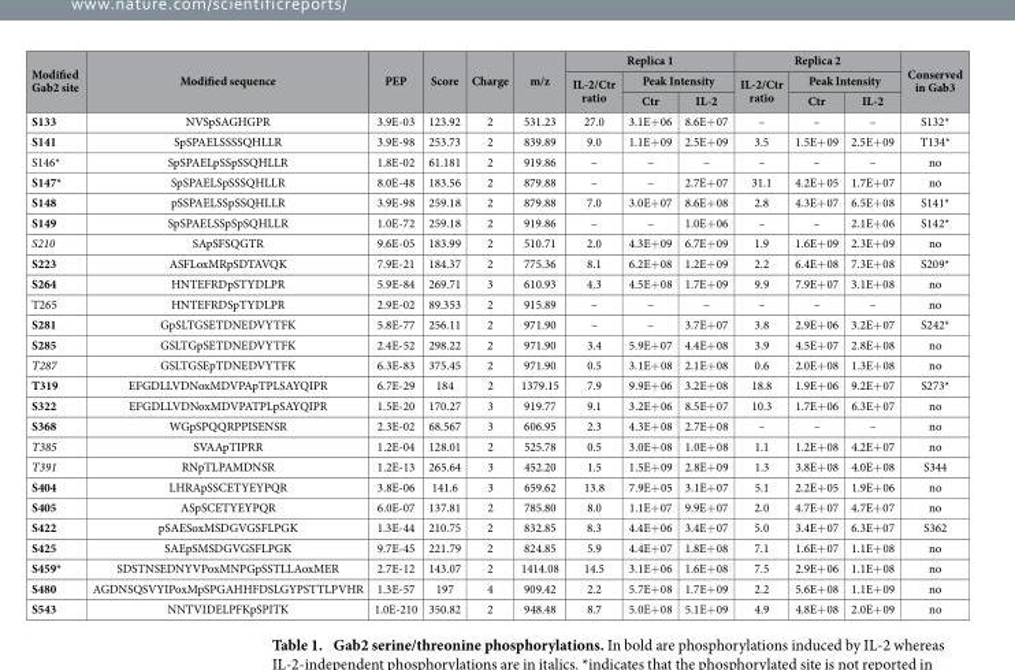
<table><thead><tr><td rowspan="3">Modified Gab2 site</td><td rowspan="3">Modified sequence</td><td rowspan="3">PEP</td><td rowspan="3">Score</td><td rowspan="3">Charge</td><td rowspan="3">m/z</td><td colspan="3">Replica 1</td><td colspan="3">Replica 2</td><td rowspan="3">Conserved in Gab3</td></tr><tr><td rowspan="2">IL-2/Ctr ratio</td><td colspan="2">Peak Intensity</td><td rowspan="2">IL-2/Ctr ratio</td><td colspan="2">Peak Intensity</td></tr><tr><td>Ctr</td><td>IL-2</td><td>Ctr</td><td>IL-2</td></tr></thead><tbody><tr><td>S133</td><td>NVSpSAGHGPR</td><td>3.9E-03</td><td>123.92</td><td>2</td><td>531.23</td><td>27.0</td><td>3.1E+ 06</td><td>8.6E+ 07</td><td>–</td><td>–</td><td>–</td><td>S132*</td></tr><tr><td>S141</td><td>SpSPAELSSSSQHLLR</td><td>3.9E-98</td><td>253.73</td><td>2</td><td>839.89</td><td>9.0</td><td>1.1E+ 09</td><td>2.5E+ 09</td><td>3.5</td><td>1.5E+ 09</td><td>2.5E+ 09</td><td>T134*</td></tr><tr><td>S146*</td><td>SpSPAELpSSpSSQHLLR</td><td>1.8E-02</td><td>61.181</td><td>2</td><td>919.86</td><td>–</td><td>–</td><td>–</td><td>–</td><td>–</td><td>–</td><td>no</td></tr><tr><td>S147*</td><td>SpSPAELSpSSSQHLLR</td><td>8.0E-48</td><td>183.56</td><td>2</td><td>879.88</td><td>–</td><td>–</td><td>2.7E+ 07</td><td>31.1</td><td>4.2E+ 05</td><td>1.7E+ 07</td><td>no</td></tr><tr><td>S148</td><td>pSSPAELSSpSSQHLLR</td><td>3.9E-98</td><td>259.18</td><td>2</td><td>879.88</td><td>7.0</td><td>3.0E+ 07</td><td>8.6E+ 08</td><td>2.8</td><td>4.3E+ 07</td><td>6.5E+ 08</td><td>S141*</td></tr><tr><td>S149</td><td>SpSPAELSSpSpSQHLLR</td><td>1.0E-72</td><td>259.18</td><td>2</td><td>919.86</td><td>–</td><td>–</td><td>1.0E+ 06</td><td>–</td><td>–</td><td>2.1E+ 06</td><td>S142*</td></tr><tr><td>S210</td><td>SApSFSQGTR</td><td>9.6E-05</td><td>183.99</td><td>2</td><td>510.71</td><td>2.0</td><td>4.3E+ 09</td><td>6.7E+ 09</td><td>1.9</td><td>1.6E+ 09</td><td>2.3E+ 09</td><td>no</td></tr><tr><td>S223</td><td>ASFLoxMRpSDTAVQK</td><td>7.9E-21</td><td>184.37</td><td>2</td><td>775.36</td><td>8.1</td><td>6.2E+ 08</td><td>1.2E+ 09</td><td>2.2</td><td>6.4E+ 08</td><td>7.3E+ 08</td><td>S209*</td></tr><tr><td>S264</td><td>HNTEFRDpSTYDLPR</td><td>5.9E-84</td><td>269.71</td><td>3</td><td>610.93</td><td>4.3</td><td>4.5E+ 08</td><td>1.7E+ 09</td><td>9.9</td><td>7.9E+ 07</td><td>3.1E+ 08</td><td>no</td></tr><tr><td>T265</td><td>HNTEFRDSpTYDLPR</td><td>2.9E-02</td><td>89.353</td><td>2</td><td>915.89</td><td>–</td><td>–</td><td>–</td><td>–</td><td>–</td><td>–</td><td>no</td></tr><tr><td>S281</td><td>GpSLTGSETDNEDVYTFK</td><td>5.8E-77</td><td>256.11</td><td>2</td><td>971.90</td><td>–</td><td>–</td><td>3.7E+ 07</td><td>3.8</td><td>2.9E+ 06</td><td>3.2E+ 07</td><td>S242*</td></tr><tr><td>S285</td><td>GSLTGpSETDNEDVYTFK</td><td>2.4E-52</td><td>298.22</td><td>2</td><td>971.90</td><td>3.4</td><td>5.9E+ 07</td><td>4.4E+ 08</td><td>3.9</td><td>4.5E+ 07</td><td>2.8E+ 08</td><td>no</td></tr><tr><td>T287</td><td>GSLTGSEpTDNEDVYTFK</td><td>6.3E-83</td><td>375.45</td><td>2</td><td>971.90</td><td>0.5</td><td>3.1E+ 08</td><td>2.1E+ 08</td><td>0.6</td><td>2.0E+ 08</td><td>1.3E+ 08</td><td>no</td></tr><tr><td>T319</td><td>EFGDLLVDNoxMDVPApTPLSAYQIPR</td><td>6.7E-29</td><td>184</td><td>2</td><td>1379.15</td><td>7.9</td><td>9.9E+ 06</td><td>3.2E+ 08</td><td>18.8</td><td>1.9E+ 06</td><td>9.2E+ 07</td><td>S273*</td></tr><tr><td>S322</td><td>EFGDLLVDNoxMDVPATPLpSAYQIPR</td><td>1.5E-20</td><td>170.27</td><td>3</td><td>919.77</td><td>9.1</td><td>3.2E+ 06</td><td>8.5E+ 07</td><td>10.3</td><td>1.7E+ 06</td><td>6.3E+ 07</td><td>no</td></tr><tr><td>S368</td><td>WGpSPQQRPPISENSR</td><td>2.3E-02</td><td>68.567</td><td>3</td><td>606.95</td><td>2.3</td><td>4.3E+ 08</td><td>2.7E+ 08</td><td>–</td><td>–</td><td>–</td><td>no</td></tr><tr><td>T385</td><td>SVAApTIPRR</td><td>1.2E-04</td><td>128.01</td><td>2</td><td>525.78</td><td>0.5</td><td>3.0E+ 08</td><td>1.0E+ 08</td><td>1.1</td><td>1.2E+ 08</td><td>4.2E+ 07</td><td>no</td></tr><tr><td>T391</td><td>RNpTLPAMDNSR</td><td>1.2E-13</td><td>265.64</td><td>3</td><td>452.20</td><td>1.5</td><td>1.5E+ 09</td><td>2.8E+ 09</td><td>1.3</td><td>3.8E+ 08</td><td>4.0E+ 08</td><td>S344</td></tr><tr><td>S404</td><td>LHRApSSCETYEYPQR</td><td>3.8E-06</td><td>141.6</td><td>3</td><td>659.62</td><td>13.8</td><td>7.9E+ 05</td><td>3.1E+ 07</td><td>5.1</td><td>2.2E+ 05</td><td>1.9E+ 06</td><td>no</td></tr><tr><td>S405</td><td>ASpSCETYEYPQR</td><td>6.0E-07</td><td>137.81</td><td>2</td><td>785.80</td><td>8.0</td><td>1.1E+ 07</td><td>9.9E+ 07</td><td>2.0</td><td>4.7E+ 07</td><td>4.7E+ 07</td><td>no</td></tr><tr><td>S422</td><td>pSAESoxMSDGVGSFLPGK</td><td>1.3E-44</td><td>210.75</td><td>2</td><td>832.85</td><td>8.3</td><td>4.4E+ 06</td><td>3.4E+ 07</td><td>5.0</td><td>3.4E+ 07</td><td>6.3E+ 07</td><td>S362</td></tr><tr><td>S425</td><td>SAEpSMSDGVGSFLPGK</td><td>9.7E-45</td><td>221.79</td><td>2</td><td>824.85</td><td>5.9</td><td>4.4E+ 07</td><td>1.8E+ 08</td><td>7.1</td><td>1.6E+ 07</td><td>1.1E+ 08</td><td>no</td></tr><tr><td>S459*</td><td>SDSTNSEDNYVPoxMNPGpSSTLLAoxMER</td><td>2.7E-12</td><td>143.07</td><td>2</td><td>1414.08</td><td>14.5</td><td>3.1E+ 06</td><td>1.6E+ 08</td><td>7.5</td><td>2.9E+ 06</td><td>1.1E+ 08</td><td>no</td></tr><tr><td>S480</td><td>AGDNSQSVYIPoxMpSPGAHHFDSLGYPSTTLPVHR</td><td>1.3E-57</td><td>197</td><td>4</td><td>909.42</td><td>2.2</td><td>5.7E+ 08</td><td>1.7E+ 09</td><td>2.2</td><td>5.6E+ 08</td><td>1.1E+ 09</td><td>no</td></tr><tr><td>S543</td><td>NNTVIDELPFKpSPITK</td><td>1.0E-210</td><td>350.82</td><td>2</td><td>948.48</td><td>8.7</td><td>5.0E+ 08</td><td>5.1E+ 09</td><td>4.9</td><td>4.8E+ 08</td><td>2.0E+ 09</td><td>no</td></tr></tbody></table>